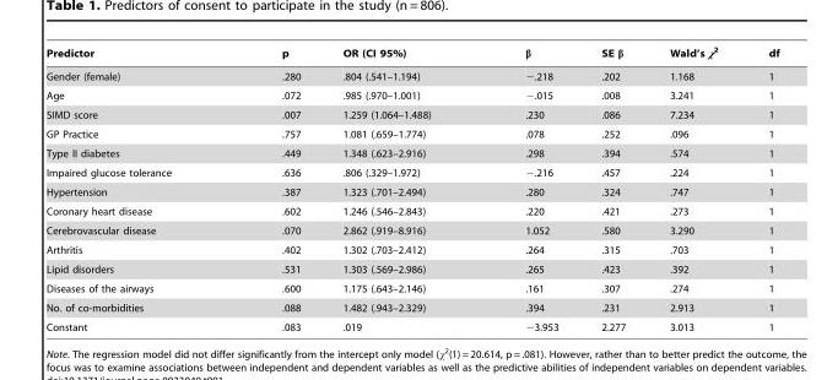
<table><thead><tr><td>Predictor</td><td>p</td><td>OR (CI 95%)</td><td>β</td><td>SE β</td><td>Wald’s χ<sup>2</sup></td><td>df</td></tr></thead><tbody><tr><td>Gender (female)</td><td>.280</td><td>.804 (.541–1.194)</td><td>−.218</td><td>.202</td><td>1.168</td><td>1</td></tr><tr><td>Age</td><td>.072</td><td>.985 (.970–1.001)</td><td>−.015</td><td>.008</td><td>3.241</td><td>1</td></tr><tr><td>SIMD score</td><td>.007</td><td>1.259 (1.064–1.488)</td><td>.230</td><td>.086</td><td>7.234</td><td>1</td></tr><tr><td>GP Practice</td><td>.757</td><td>1.081 (.659–1.774)</td><td>.078</td><td>.252</td><td>.096</td><td>1</td></tr><tr><td>Type II diabetes</td><td>.449</td><td>1.348 (.623–2.916)</td><td>.298</td><td>.394</td><td>.574</td><td>1</td></tr><tr><td>Impaired glucose tolerance</td><td>.636</td><td>.806 (.329–1.972)</td><td>−.216</td><td>.457</td><td>.224</td><td>1</td></tr><tr><td>Hypertension</td><td>.387</td><td>1.323 (.701–2.494)</td><td>.280</td><td>.324</td><td>.747</td><td>1</td></tr><tr><td>Coronary heart disease</td><td>.602</td><td>1.246 (.546–2.843)</td><td>.220</td><td>.421</td><td>.273</td><td>1</td></tr><tr><td>Cerebrovascular disease</td><td>.070</td><td>2.862 (.919–8.916)</td><td>1.052</td><td>.580</td><td>3.290</td><td>1</td></tr><tr><td>Arthritis</td><td>.402</td><td>1.302 (.703–2.412)</td><td>.264</td><td>.315</td><td>.703</td><td>1</td></tr><tr><td>Lipid disorders</td><td>.531</td><td>1.303 (.569–2.986)</td><td>.265</td><td>.423</td><td>.392</td><td>1</td></tr><tr><td>Diseases of the airways</td><td>.600</td><td>1.175 (.643–2.146)</td><td>.161</td><td>.307</td><td>.274</td><td>1</td></tr><tr><td>No. of co-morbidities</td><td>.088</td><td>1.482 (.943–2.329)</td><td>.394</td><td>.231</td><td>2.913</td><td>1</td></tr><tr><td>Constant</td><td>.083</td><td>.019</td><td>−3.953</td><td>2.277</td><td>3.013</td><td>1</td></tr></tbody></table>